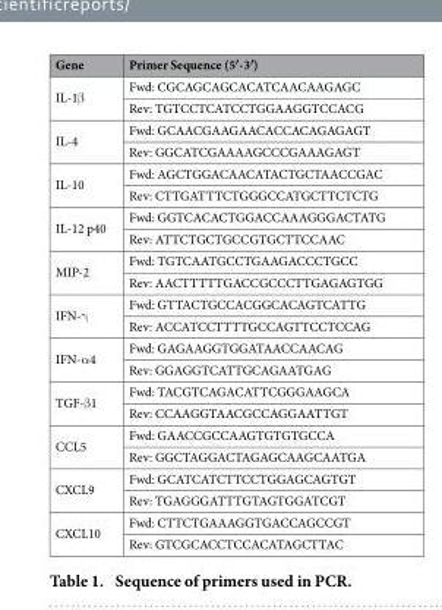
<table><thead><tr><td>Gene</td><td>Primer Sequence (5′-3′)</td></tr></thead><tbody><tr><td rowspan="2">IL-1β</td><td>Fwd: CGCAGCAGCACATCAACAAGAGC</td></tr><tr><td>Rev: TGTCCTCATCCTGGAAGGTCCACG</td></tr><tr><td rowspan="2">IL-4</td><td>Fwd: GCAACGAAGAACACCACAGAGAGT</td></tr><tr><td>Rev: GGCATCGAAAAGCCCGAAAGAGT</td></tr><tr><td rowspan="2">IL-10</td><td>Fwd: AGCTGGACAACATACTGCTAACCGAC</td></tr><tr><td>Rev: CTTGATTTCTGGGCCATGCTTCTCTG</td></tr><tr><td rowspan="2">IL-12 p40</td><td>Fwd: GGTCACACTGGACCAAAGGGACTATG</td></tr><tr><td>Rev: ATTCTGCTGCCGTGCTTCCAAC</td></tr><tr><td rowspan="2">MIP-2</td><td>Fwd: TGTCAATGCCTGAAGACCCTGCC</td></tr><tr><td>Rev: AACTTTTTGACCGCCCTTGAGAGTGG</td></tr><tr><td rowspan="2">IFN-γ</td><td>Fwd: GTTACTGCCACGGCACAGTCATTG</td></tr><tr><td>Rev: ACCATCCTTTTGCCAGTTCCTCCAG</td></tr><tr><td rowspan="2">IFN-α 4</td><td>Fwd: GAGAAGGTGGATAACCAACAG</td></tr><tr><td>Rev: GGAGGTCATTGCAGAATGAG</td></tr><tr><td rowspan="2">TGF-β 1</td><td>Fwd: TACGTCAGACATTCGGGAAGCA</td></tr><tr><td>Rev: CCAAGGTAACGCCAGGAATTGT</td></tr><tr><td rowspan="2">CCL5</td><td>Fwd: GAACCGCCAAGTGTGTGCCA</td></tr><tr><td>Rev: GGCTAGGACTAGAGCAAGCAATGA</td></tr><tr><td rowspan="2">CXCL9</td><td>Fwd: GCATCATCTTCCTGGAGCAGTGT</td></tr><tr><td>Rev: TGAGGGATTTGTAGTGGATCGT</td></tr><tr><td rowspan="2">CXCL10</td><td>Fwd: CTTCTGAAAGGTGACCAGCCGT</td></tr><tr><td>Rev: GTCGCACCTCCACATAGCTTAC</td></tr></tbody></table>